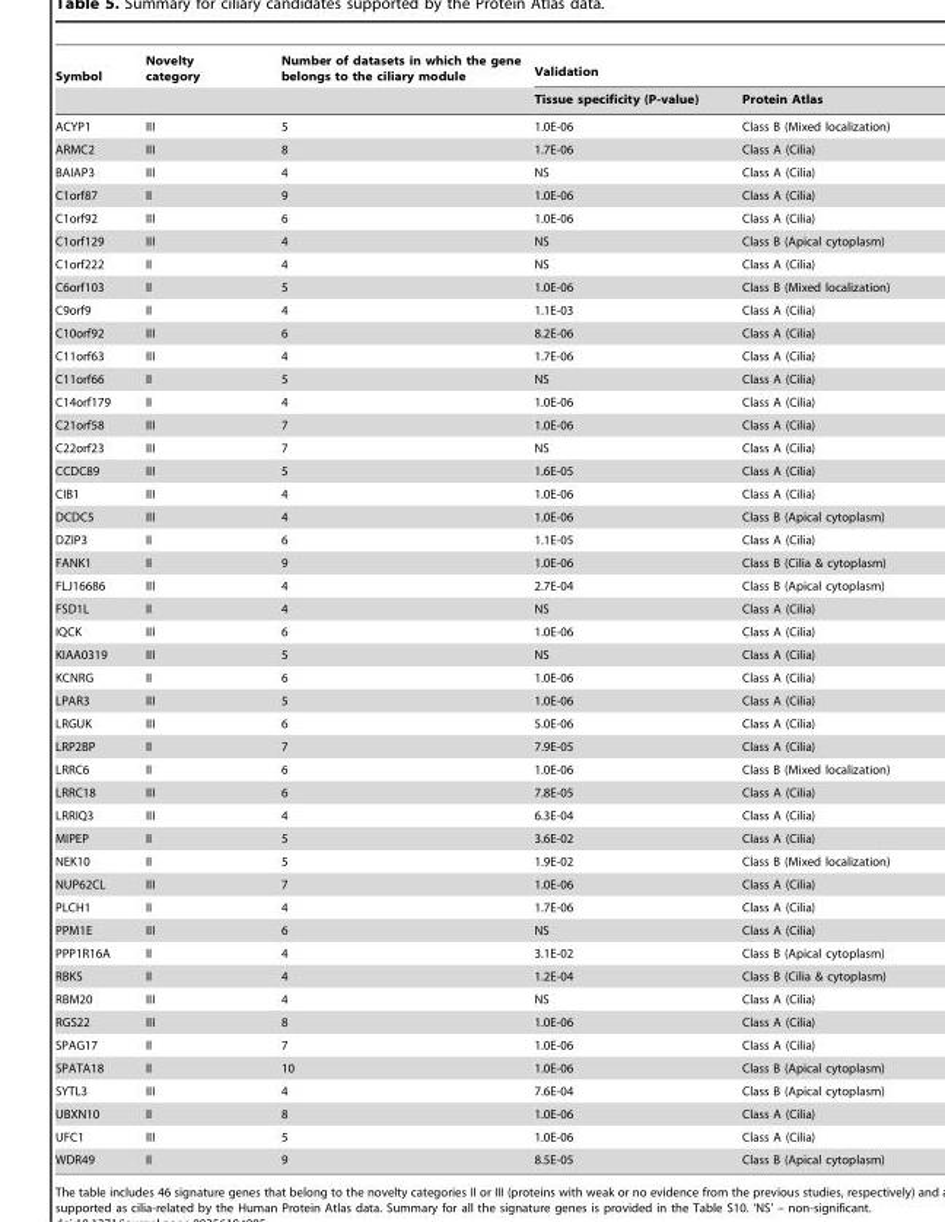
<table><thead><tr><td rowspan="2">Symbol</td><td rowspan="2">Novelty category</td><td rowspan="2">Number of datasets in which the gene belongs to the ciliary module</td><td colspan="2">Validation</td></tr><tr><td>Tissue specificity (P-value)</td><td>Protein Atlas</td></tr></thead><tbody><tr><td>ACYP1</td><td>III</td><td>5</td><td>1.0E-06</td><td>Class B (Mixed localization)</td></tr><tr><td>ARMC2</td><td>III</td><td>8</td><td>1.7E-06</td><td>Class A (Cilia)</td></tr><tr><td>BAIAP3</td><td>III</td><td>4</td><td>NS</td><td>Class A (Cilia)</td></tr><tr><td>C1orf87</td><td>II</td><td>9</td><td>1.0E-06</td><td>Class A (Cilia)</td></tr><tr><td>C1orf92</td><td>III</td><td>6</td><td>1.0E-06</td><td>Class A (Cilia)</td></tr><tr><td>C1orf129</td><td>III</td><td>4</td><td>NS</td><td>Class B (Apical cytoplasm)</td></tr><tr><td>C1orf222</td><td>II</td><td>4</td><td>NS</td><td>Class A (Cilia)</td></tr><tr><td>C6orf103</td><td>II</td><td>5</td><td>1.0E-06</td><td>Class B (Mixed localization)</td></tr><tr><td>C9orf9</td><td>II</td><td>4</td><td>1.1E-03</td><td>Class A (Cilia)</td></tr><tr><td>C10orf92</td><td>III</td><td>6</td><td>8.2E-06</td><td>Class A (Cilia)</td></tr><tr><td>C11orf63</td><td>III</td><td>4</td><td>1.7E-06</td><td>Class A (Cilia)</td></tr><tr><td>C11orf66</td><td>II</td><td>5</td><td>NS</td><td>Class A (Cilia)</td></tr><tr><td>C14orf179</td><td>II</td><td>4</td><td>1.0E-06</td><td>Class A (Cilia)</td></tr><tr><td>C21orf58</td><td>III</td><td>7</td><td>1.0E-06</td><td>Class A (Cilia)</td></tr><tr><td>C22orf23</td><td>III</td><td>7</td><td>NS</td><td>Class A (Cilia)</td></tr><tr><td>CCDC89</td><td>III</td><td>5</td><td>1.6E-05</td><td>Class A (Cilia)</td></tr><tr><td>CIB1</td><td>III</td><td>4</td><td>1.0E-06</td><td>Class A (Cilia)</td></tr><tr><td>DCDC5</td><td>III</td><td>4</td><td>1.0E-06</td><td>Class B (Apical cytoplasm)</td></tr><tr><td>DZIP3</td><td>II</td><td>6</td><td>1.1E-05</td><td>Class A (Cilia)</td></tr><tr><td>FANK1</td><td>II</td><td>9</td><td>1.0E-06</td><td>Class B (Cilia &amp; cytoplasm)</td></tr><tr><td>FLJ16686</td><td>III</td><td>4</td><td>2.7E-04</td><td>Class B (Apical cytoplasm)</td></tr><tr><td>FSD1L</td><td>II</td><td>4</td><td>NS</td><td>Class A (Cilia)</td></tr><tr><td>IQCK</td><td>III</td><td>6</td><td>1.0E-06</td><td>Class A (Cilia)</td></tr><tr><td>KIAA0319</td><td>III</td><td>5</td><td>NS</td><td>Class A (Cilia)</td></tr><tr><td>KCNRG</td><td>II</td><td>6</td><td>1.0E-06</td><td>Class A (Cilia)</td></tr><tr><td>LPAR3</td><td>III</td><td>5</td><td>1.0E-06</td><td>Class A (Cilia)</td></tr><tr><td>LRGUK</td><td>III</td><td>6</td><td>5.0E-06</td><td>Class A (Cilia)</td></tr><tr><td>LRP2BP</td><td>II</td><td>7</td><td>7.9E-05</td><td>Class A (Cilia)</td></tr><tr><td>LRRC6</td><td>II</td><td>6</td><td>1.0E-06</td><td>Class B (Mixed localization)</td></tr><tr><td>LRRC18</td><td>III</td><td>6</td><td>7.8E-05</td><td>Class A (Cilia)</td></tr><tr><td>LRRIQ3</td><td>III</td><td>4</td><td>6.3E-04</td><td>Class A (Cilia)</td></tr><tr><td>MIPEP</td><td>II</td><td>5</td><td>3.6E-02</td><td>Class A (Cilia)</td></tr><tr><td>NEK10</td><td>II</td><td>5</td><td>1.9E-02</td><td>Class B (Mixed localization)</td></tr><tr><td>NUP62CL</td><td>III</td><td>7</td><td>1.0E-06</td><td>Class A (Cilia)</td></tr><tr><td>PLCH1</td><td>II</td><td>4</td><td>1.7E-06</td><td>Class A (Cilia)</td></tr><tr><td>PPM1E</td><td>III</td><td>6</td><td>NS</td><td>Class A (Cilia)</td></tr><tr><td>PPP1R16A</td><td>II</td><td>4</td><td>3.1E-02</td><td>Class B (Apical cytoplasm)</td></tr><tr><td>RBKS</td><td>II</td><td>4</td><td>1.2E-04</td><td>Class B (Cilia &amp; cytoplasm)</td></tr><tr><td>RBM20</td><td>III</td><td>4</td><td>NS</td><td>Class A (Cilia)</td></tr><tr><td>RGS22</td><td>III</td><td>8</td><td>1.0E-06</td><td>Class A (Cilia)</td></tr><tr><td>SPAG17</td><td>II</td><td>7</td><td>1.0E-06</td><td>Class A (Cilia)</td></tr><tr><td>SPATA18</td><td>II</td><td>10</td><td>1.0E-06</td><td>Class B (Apical cytoplasm)</td></tr><tr><td>SYTL3</td><td>III</td><td>4</td><td>7.6E-04</td><td>Class B (Apical cytoplasm)</td></tr><tr><td>UBXN10</td><td>II</td><td>8</td><td>1.0E-06</td><td>Class A (Cilia)</td></tr><tr><td>UFC1</td><td>III</td><td>5</td><td>1.0E-06</td><td>Class A (Cilia)</td></tr><tr><td>WDR49</td><td>II</td><td>9</td><td>8.5E-05</td><td>Class B (Apical cytoplasm)</td></tr></tbody></table>